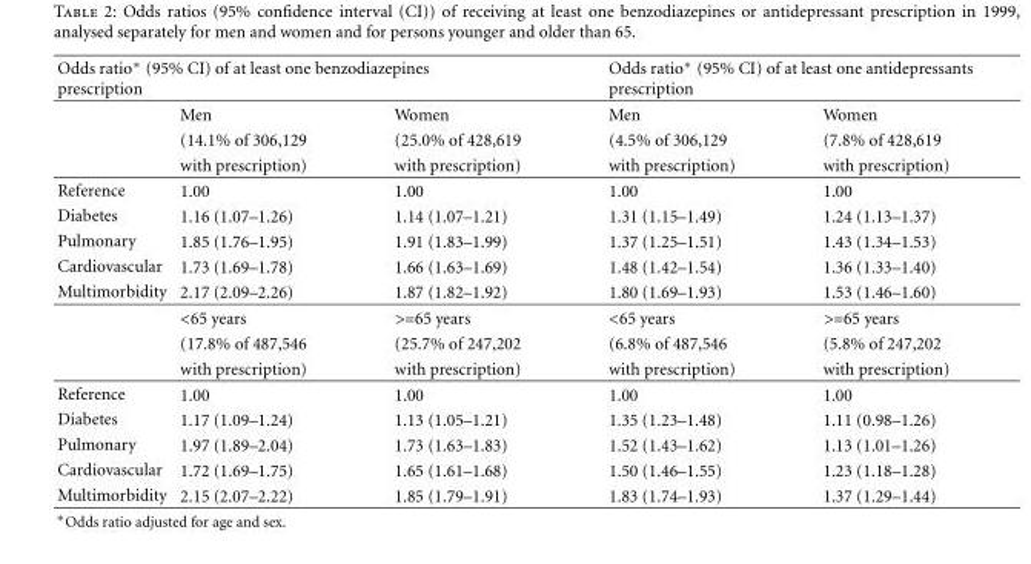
<table><thead><tr><td colspan="3">Odds ratio∗ (95% CI) of at least one benzodiazepines prescription</td><td colspan="2">Odds ratio∗ (95% CI) of at least one antidepressants prescription</td></tr><tr><td></td><td>Men</td><td>Women</td><td>Men</td><td>Women</td></tr></thead><tbody><tr><td></td><td>(14.1% of 306,129</td><td>(25.0% of 428,619</td><td>(4.5% of 306,129</td><td>(7.8% of 428,619</td></tr><tr><td></td><td>with prescription)</td><td>with prescription)</td><td>with prescription)</td><td>with prescription)</td></tr><tr><td>Reference</td><td>1.00</td><td>1.00</td><td>1.00</td><td>1.00</td></tr><tr><td>Diabetes</td><td>1.16 (1.07–1.26)</td><td>1.14 (1.07–1.21)</td><td>1.31 (1.15–1.49)</td><td>1.24 (1.13–1.37)</td></tr><tr><td>Pulmonary</td><td>1.85 (1.76–1.95)</td><td>1.91 (1.83–1.99)</td><td>1.37 (1.25–1.51)</td><td>1.43 (1.34–1.53)</td></tr><tr><td>Cardiovascular</td><td>1.73 (1.69–1.78)</td><td>1.66 (1.63–1.69)</td><td>1.48 (1.42–1.54)</td><td>1.36 (1.33–1.40)</td></tr><tr><td rowspan="4">Multimorbidity</td><td>2.17 (2.09–2.26)</td><td>1.87 (1.82–1.92)</td><td>1.80 (1.69–1.93)</td><td>1.53 (1.46–1.60)</td></tr><tr><td>&lt;65 years</td><td>&gt;=65 years</td><td>&lt;65 years</td><td>&gt;=65 years</td></tr><tr><td>(17.8% of 487,546</td><td>(25.7% of 247,202</td><td>(6.8% of 487,546</td><td>(5.8% of 247,202</td></tr><tr><td>with prescription)</td><td>with prescription)</td><td>with prescription)</td><td>with prescription)</td></tr><tr><td>Reference</td><td>1.00</td><td>1.00</td><td>1.00</td><td>1.00</td></tr><tr><td>Diabetes</td><td>1.17 (1.09–1.24)</td><td>1.13 (1.05–1.21)</td><td>1.35 (1.23–1.48)</td><td>1.11 (0.98–1.26)</td></tr><tr><td>Pulmonary</td><td>1.97 (1.89–2.04)</td><td>1.73 (1.63–1.83)</td><td>1.52 (1.43–1.62)</td><td>1.13 (1.01–1.26)</td></tr><tr><td>Cardiovascular</td><td>1.72 (1.69–1.75)</td><td>1.65 (1.61–1.68)</td><td>1.50 (1.46–1.55)</td><td>1.23 (1.18–1.28)</td></tr><tr><td>Multimorbidity</td><td>2.15 (2.07–2.22)</td><td>1.85 (1.79–1.91)</td><td>1.83 (1.74–1.93)</td><td>1.37 (1.29–1.44)</td></tr></tbody></table>